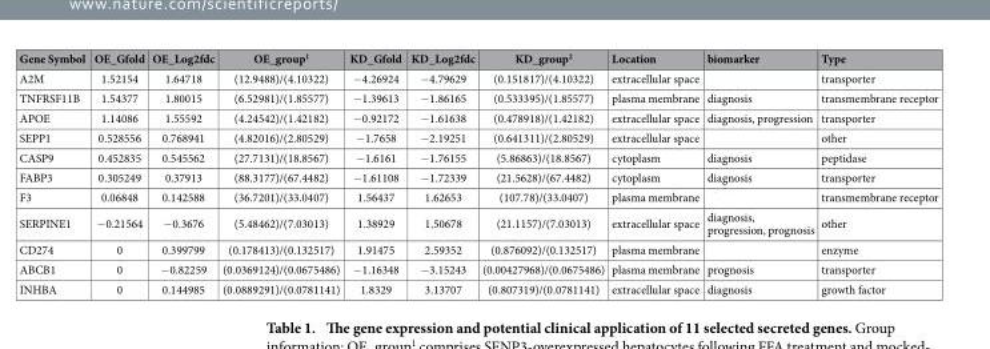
<table><thead><tr><td>Gene Symbol</td><td>OE_Gfold</td><td>OE_Log2fdc</td><td>OE_group<sup>1</sup></td><td>KD_Gfold</td><td>KD_Log2fdc</td><td>KD_group<sup>2</sup></td><td>Location</td><td>biomarker</td><td>Type</td></tr></thead><tbody><tr><td>A2M</td><td>1.52154</td><td>1.64718</td><td>(12.9488)/(4.10322)</td><td>− 4.26924</td><td>− 4.79629</td><td>(0.151817)/(4.10322)</td><td>extracellular space</td><td></td><td>transporter</td></tr><tr><td>TNFRSF11B</td><td>1.54377</td><td>1.80015</td><td>(6.52981)/(1.85577)</td><td>− 1.39613</td><td>− 1.86165</td><td>(0.533395)/(1.85577)</td><td>plasma membrane</td><td>diagnosis</td><td>transmembrane receptor</td></tr><tr><td>APOE</td><td>1.14086</td><td>1.55592</td><td>(4.24542)/(1.42182)</td><td>− 0.92172</td><td>− 1.61638</td><td>(0.478918)/(1.42182)</td><td>extracellular space</td><td>diagnosis, progression</td><td>transporter</td></tr><tr><td>SEPP1</td><td>0.528556</td><td>0.768941</td><td>(4.82016)/(2.80529)</td><td>− 1.7658</td><td>− 2.19251</td><td>(0.641311)/(2.80529)</td><td>extracellular space</td><td></td><td>other</td></tr><tr><td>CASP9</td><td>0.452835</td><td>0.545562</td><td>(27.7131)/(18.8567)</td><td>− 1.6161</td><td>− 1.76155</td><td>(5.86863)/(18.8567)</td><td>cytoplasm</td><td>diagnosis</td><td>peptidase</td></tr><tr><td>FABP3</td><td>0.305249</td><td>0.37913</td><td>(88.3177)/(67.4482)</td><td>− 1.61108</td><td>− 1.72339</td><td>(21.5628)/(67.4482)</td><td>cytoplasm</td><td>diagnosis</td><td>transporter</td></tr><tr><td>F3</td><td>0.06848</td><td>0.142588</td><td>(36.7201)/(33.0407)</td><td>1.56437</td><td>1.62653</td><td>(107.78)/(33.0407)</td><td>plasma membrane</td><td></td><td>transmembrane receptor</td></tr><tr><td>SERPINE1</td><td>− 0.21564</td><td>− 0.3676</td><td>(5.48462)/(7.03013)</td><td>1.38929</td><td>1.50678</td><td>(21.1157)/(7.03013)</td><td>extracellular space</td><td>diagnosis, progression, prognosis</td><td>other</td></tr><tr><td>CD274</td><td>0</td><td>0.399799</td><td>(0.178413)/(0.132517)</td><td>1.91475</td><td>2.59352</td><td>(0.876092)/(0.132517)</td><td>plasma membrane</td><td></td><td>enzyme</td></tr><tr><td>ABCB1</td><td>0</td><td>− 0.82259</td><td>(0.0369124)/(0.0675486)</td><td>− 1.16348</td><td>− 3.15243</td><td>(0.00427968)/(0.0675486)</td><td>plasma membrane</td><td>prognosis</td><td>transporter</td></tr><tr><td>INHBA</td><td>0</td><td>0.144985</td><td>(0.0889291)/(0.0781141)</td><td>1.8329</td><td>3.13707</td><td>(0.807319)/(0.0781141)</td><td>extracellular space</td><td>diagnosis</td><td>growth factor</td></tr></tbody></table>